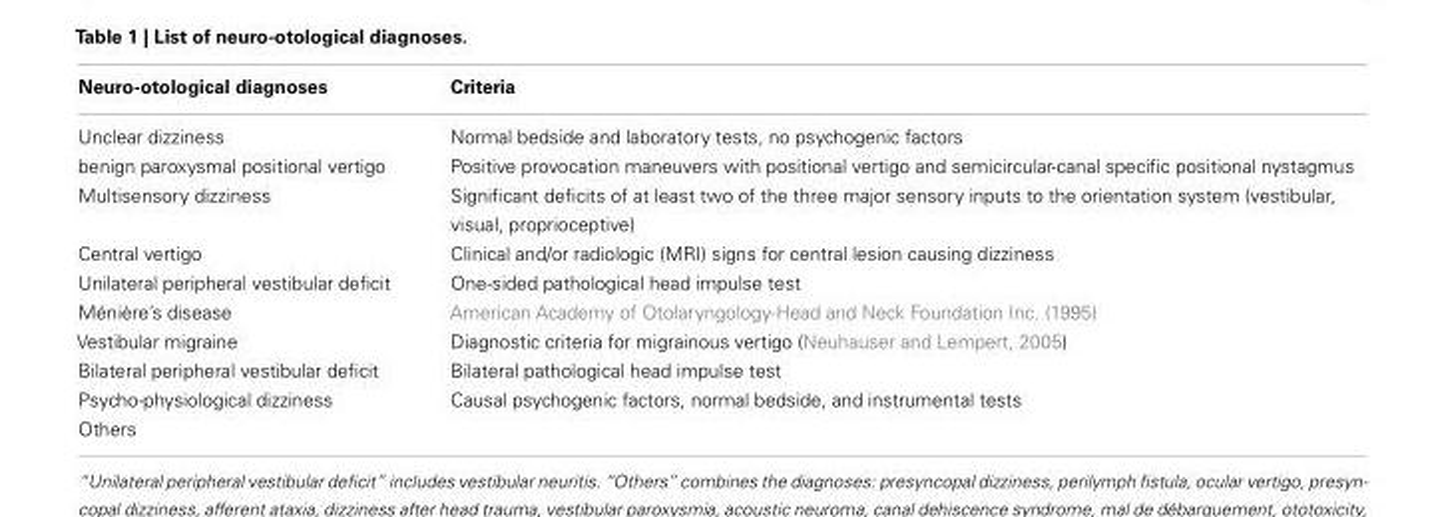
<table><thead><tr><td>Neuro-otological diagnoses</td><td>Criteria</td></tr></thead><tbody><tr><td>Unclear dizziness</td><td>Normal bedside and laboratory tests, no psychogenic factors</td></tr><tr><td>benign paroxysmal positional vertigo</td><td>Positive provocation maneuvers with positional vertigo and semicircular-canal specific positional nystagmus</td></tr><tr><td>Multisensory dizziness</td><td>Significant deficits of at least two of the three major sensory inputs to the orientation system (vestibular, visual, proprioceptive)</td></tr><tr><td>Central vertigo</td><td>Clinical and/or radiologic (MRI) signs for central lesion causing dizziness</td></tr><tr><td>Unilateral peripheral vestibular deficit</td><td>One-sided pathological head impulse test</td></tr><tr><td>Ménière’s disease</td><td>American Academy of Otolaryngology-Head and Neck Foundation Inc. (1995)</td></tr><tr><td>Vestibular migraine</td><td>Diagnostic criteria for migrainous vertigo (Neuhauser and Lempert, 2005)</td></tr><tr><td>Bilateral peripheral vestibular deficit</td><td>Bilateral pathological head impulse test</td></tr><tr><td>Psycho-physiological dizziness</td><td>Causal psychogenic factors, normal bedside, and instrumental tests</td></tr><tr><td>Others</td><td></td></tr></tbody></table>